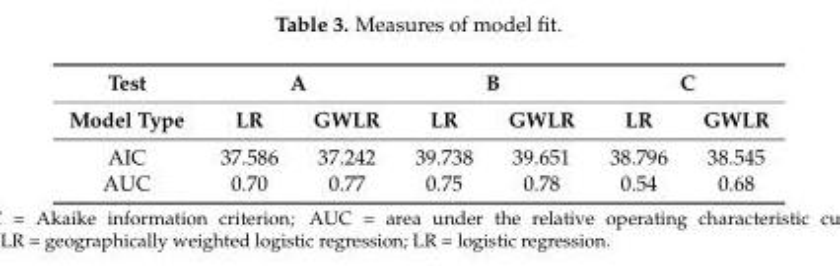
<table><thead><tr><td rowspan="2">Test Model Type</td><td colspan="2">A</td><td colspan="2">B</td><td colspan="2">C</td></tr><tr><td>LR</td><td>GWLR</td><td>LR</td><td>GWLR</td><td>LR</td><td>GWLR</td></tr></thead><tbody><tr><td>AIC</td><td>37.586</td><td>37.242</td><td>39.738</td><td>39.651</td><td>38.796</td><td>38.545</td></tr><tr><td>AUC</td><td>0.70</td><td>0.77</td><td>0.75</td><td>0.78</td><td>0.54</td><td>0.68</td></tr></tbody></table>